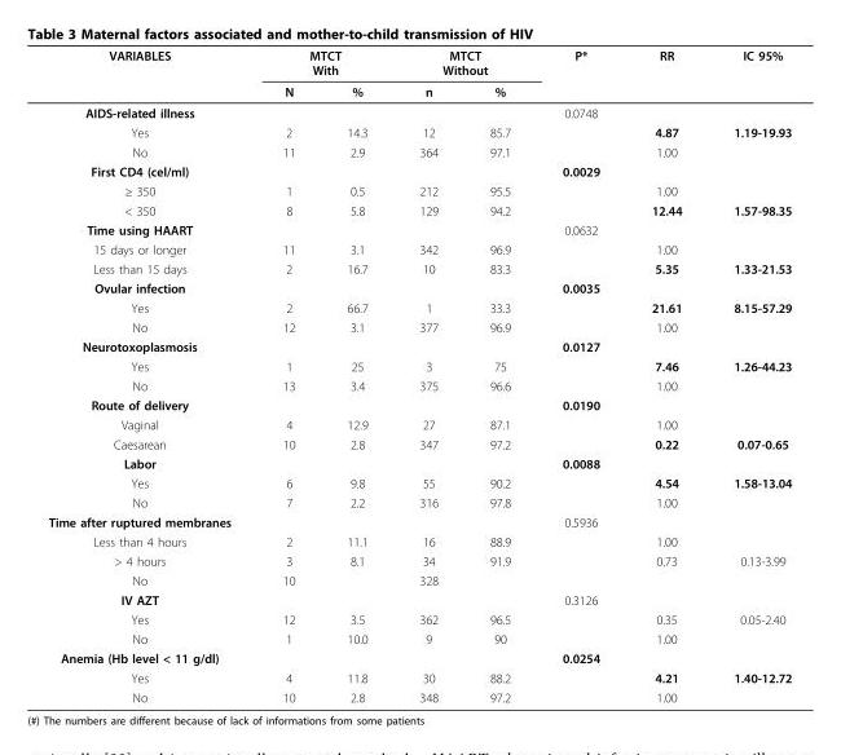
<table><thead><tr><td rowspan="2">VARIABLES</td><td colspan="2">MTCT With</td><td colspan="2">MTCT Without</td><td rowspan="2">P*</td><td rowspan="2">RR</td><td rowspan="2">IC 95%</td></tr><tr><td>N</td><td>%</td><td>n</td><td>%</td></tr></thead><tbody><tr><td>AIDS-related illness</td><td></td><td></td><td></td><td></td><td>0.0748</td><td></td><td></td></tr><tr><td>Yes</td><td>2</td><td>14.3</td><td>12</td><td>85.7</td><td></td><td>4.87</td><td>1.19-19.93</td></tr><tr><td>No</td><td>11</td><td>2.9</td><td>364</td><td>97.1</td><td></td><td>1.00</td><td></td></tr><tr><td>First CD4 (cel/ml)</td><td></td><td></td><td></td><td></td><td>0.0029</td><td></td><td></td></tr><tr><td>≥ 350</td><td>1</td><td>0.5</td><td>212</td><td>95.5</td><td></td><td>1.00</td><td></td></tr><tr><td>&lt; 350</td><td>8</td><td>5.8</td><td>129</td><td>94.2</td><td></td><td>12.44</td><td>1.57-98.35</td></tr><tr><td>Time using HAART</td><td></td><td></td><td></td><td></td><td>0.0632</td><td></td><td></td></tr><tr><td>15 days or longer</td><td>11</td><td>3.1</td><td>342</td><td>96.9</td><td></td><td>1.00</td><td></td></tr><tr><td>Less than 15 days</td><td>2</td><td>16.7</td><td>10</td><td>83.3</td><td></td><td>5.35</td><td>1.33-21.53</td></tr><tr><td>Ovular infection</td><td></td><td></td><td></td><td></td><td>0.0035</td><td></td><td></td></tr><tr><td>Yes</td><td>2</td><td>66.7</td><td>1</td><td>33.3</td><td></td><td>21.61</td><td>8.15-57.29</td></tr><tr><td>No</td><td>12</td><td>3.1</td><td>377</td><td>96.9</td><td></td><td>1.00</td><td></td></tr><tr><td>Neurotoxoplasmosis</td><td></td><td></td><td></td><td></td><td>0.0127</td><td></td><td></td></tr><tr><td>Yes</td><td>1</td><td>25</td><td>3</td><td>75</td><td></td><td>7.46</td><td>1.26-44.23</td></tr><tr><td>No</td><td>13</td><td>3.4</td><td>375</td><td>96.6</td><td></td><td>1.00</td><td></td></tr><tr><td>Route of delivery</td><td></td><td></td><td></td><td></td><td>0.0190</td><td></td><td></td></tr><tr><td>Vaginal</td><td>4</td><td>12.9</td><td>27</td><td>87.1</td><td></td><td>1.00</td><td></td></tr><tr><td>Caesarean</td><td>10</td><td>2.8</td><td>347</td><td>97.2</td><td></td><td>0.22</td><td>0.07-0.65</td></tr><tr><td>Labor</td><td></td><td></td><td></td><td></td><td>0.0088</td><td></td><td></td></tr><tr><td>Yes</td><td>6</td><td>9.8</td><td>55</td><td>90.2</td><td></td><td>4.54</td><td>1.58-13.04</td></tr><tr><td>No</td><td>7</td><td>2.2</td><td>316</td><td>97.8</td><td></td><td>1.00</td><td></td></tr><tr><td>Time after ruptured membranes</td><td></td><td></td><td></td><td></td><td>0.5936</td><td></td><td></td></tr><tr><td>Less than 4 hours</td><td>2</td><td>11.1</td><td>16</td><td>88.9</td><td></td><td>1.00</td><td></td></tr><tr><td>&gt; 4 hours</td><td>3</td><td>8.1</td><td>34</td><td>91.9</td><td></td><td>0.73</td><td>0.13-3.99</td></tr><tr><td>No</td><td>10</td><td></td><td>328</td><td></td><td></td><td></td><td></td></tr><tr><td>IV AZT</td><td></td><td></td><td></td><td></td><td>0.3126</td><td></td><td></td></tr><tr><td>Yes</td><td>12</td><td>3.5</td><td>362</td><td>96.5</td><td></td><td>0.35</td><td>0.05-2.40</td></tr><tr><td>No</td><td>1</td><td>10.0</td><td>9</td><td>90</td><td></td><td>1.00</td><td></td></tr><tr><td>Anemia (Hb level &lt; 11 g/dl)</td><td></td><td></td><td></td><td></td><td>0.0254</td><td></td><td></td></tr><tr><td>Yes</td><td>4</td><td>11.8</td><td>30</td><td>88.2</td><td></td><td>4.21</td><td>1.40-12.72</td></tr><tr><td>No</td><td>10</td><td>2.8</td><td>348</td><td>97.2</td><td></td><td>1.00</td><td></td></tr></tbody></table>